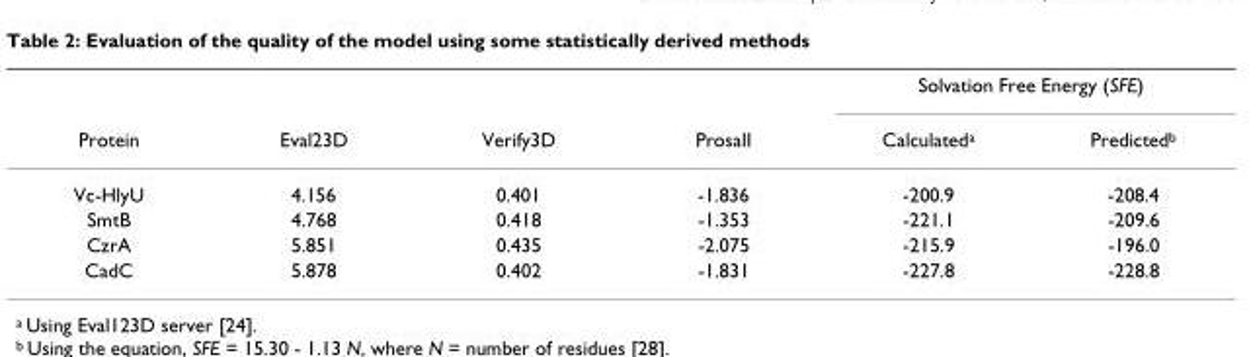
<table><thead><tr><td rowspan="2">Protein</td><td rowspan="2">Eval23D</td><td rowspan="2">Verify3D</td><td rowspan="2">ProsaII</td><td colspan="2">Solvation Free Energy (SFE)</td></tr><tr><td>Calculateda</td><td>Predictedb</td></tr></thead><tbody><tr><td>Vc-HlyU</td><td>4.156</td><td>0.401</td><td>-1.836</td><td>-200.9</td><td>-208.4</td></tr><tr><td>SmtB</td><td>4.768</td><td>0.418</td><td>-1.353</td><td>-221.1</td><td>-209.6</td></tr><tr><td>CzrA</td><td>5.851</td><td>0.435</td><td>-2.075</td><td>-215.9</td><td>-196.0</td></tr><tr><td>CadC</td><td>5.878</td><td>0.402</td><td>-1.831</td><td>-227.8</td><td>-228.8</td></tr></tbody></table>